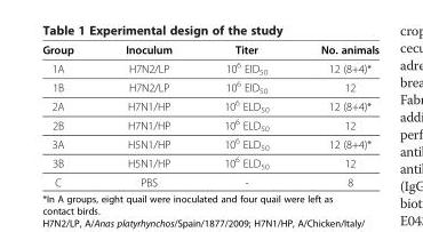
<table><thead><tr><td>Group</td><td>Inoculum</td><td>Titer</td><td>No. animals</td></tr></thead><tbody><tr><td>1A</td><td>H7N2/LP</td><td>10<sup>6</sup> EID<sub>50</sub></td><td>12 (8+4)*</td></tr><tr><td>1B</td><td>H7N2/LP</td><td>10<sup>6</sup> EID<sub>50</sub></td><td>12</td></tr><tr><td>2A</td><td>H7N1/HP</td><td>10<sup>6</sup> ELD<sub>50</sub></td><td>12 (8+4)*</td></tr><tr><td>2B</td><td>H7N1/HP</td><td>10<sup>6</sup> ELD<sub>50</sub></td><td>12</td></tr><tr><td>3A</td><td>H5N1/HP</td><td>10<sup>6</sup> ELD<sub>50</sub></td><td>12 (8+4)*</td></tr><tr><td>3B</td><td>H5N1/HP</td><td>10<sup>6</sup> ELD<sub>50</sub></td><td>12</td></tr><tr><td>C</td><td>PBS</td><td>-</td><td>8</td></tr></tbody></table>